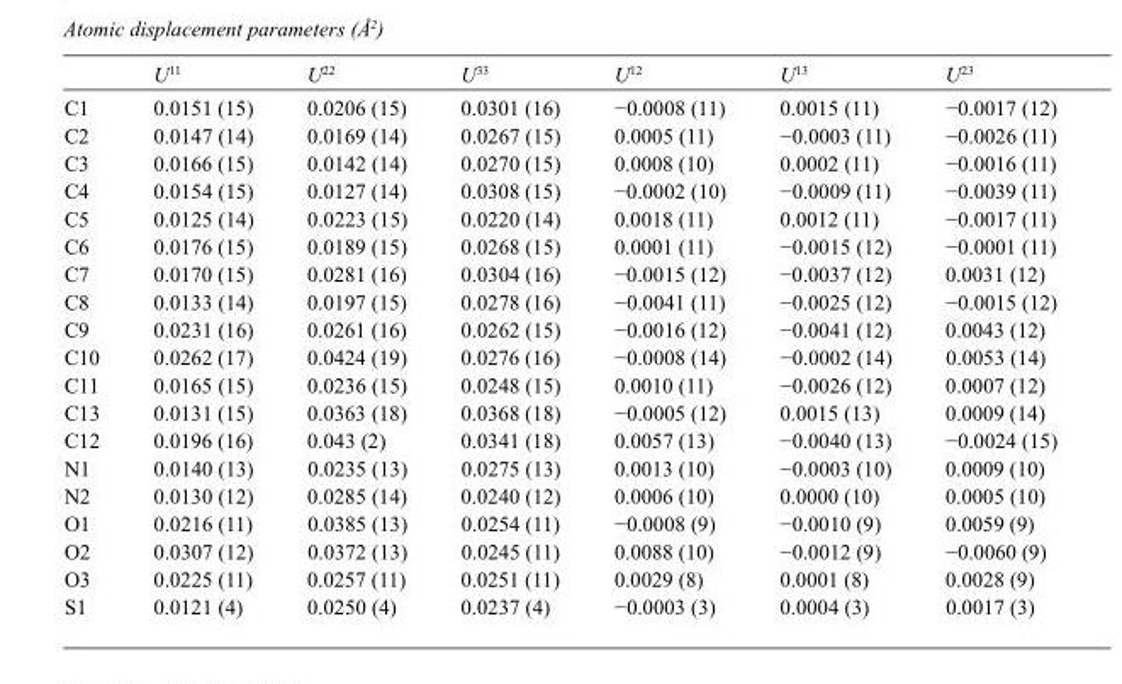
<table><thead><tr><td></td><td>U<sup>11</sup></td><td>U<sup>22</sup></td><td>U<sup>33</sup></td><td>U<sup>12</sup></td><td>U<sup>13</sup></td><td>U<sup>23</sup></td></tr></thead><tbody><tr><td>C1</td><td>0.0151 (15)</td><td>0.0206 (15)</td><td>0.0301 (16)</td><td>−0.0008 (11)</td><td>0.0015 (11)</td><td>−0.0017 (12)</td></tr><tr><td>C2</td><td>0.0147 (14)</td><td>0.0169 (14)</td><td>0.0267 (15)</td><td>0.0005 (11)</td><td>−0.0003 (11)</td><td>−0.0026 (11)</td></tr><tr><td>C3</td><td>0.0166 (15)</td><td>0.0142 (14)</td><td>0.0270 (15)</td><td>0.0008 (10)</td><td>0.0002 (11)</td><td>−0.0016 (11)</td></tr><tr><td>C4</td><td>0.0154 (15)</td><td>0.0127 (14)</td><td>0.0308 (15)</td><td>−0.0002 (10)</td><td>−0.0009 (11)</td><td>−0.0039 (11)</td></tr><tr><td>C5</td><td>0.0125 (14)</td><td>0.0223 (15)</td><td>0.0220 (14)</td><td>0.0018 (11)</td><td>0.0012 (11)</td><td>−0.0017 (11)</td></tr><tr><td>C6</td><td>0.0176 (15)</td><td>0.0189 (15)</td><td>0.0268 (15)</td><td>0.0001 (11)</td><td>−0.0015 (12)</td><td>−0.0001 (11)</td></tr><tr><td>C7</td><td>0.0170 (15)</td><td>0.0281 (16)</td><td>0.0304 (16)</td><td>−0.0015 (12)</td><td>−0.0037 (12)</td><td>0.0031 (12)</td></tr><tr><td>C8</td><td>0.0133 (14)</td><td>0.0197 (15)</td><td>0.0278 (16)</td><td>−0.0041 (11)</td><td>−0.0025 (12)</td><td>−0.0015 (12)</td></tr><tr><td>C9</td><td>0.0231 (16)</td><td>0.0261 (16)</td><td>0.0262 (15)</td><td>−0.0016 (12)</td><td>−0.0041 (12)</td><td>0.0043 (12)</td></tr><tr><td>C10</td><td>0.0262 (17)</td><td>0.0424 (19)</td><td>0.0276 (16)</td><td>−0.0008 (14)</td><td>−0.0002 (14)</td><td>0.0053 (14)</td></tr><tr><td>C11</td><td>0.0165 (15)</td><td>0.0236 (15)</td><td>0.0248 (15)</td><td>0.0010 (11)</td><td>−0.0026 (12)</td><td>0.0007 (12)</td></tr><tr><td>C13</td><td>0.0131 (15)</td><td>0.0363 (18)</td><td>0.0368 (18)</td><td>−0.0005 (12)</td><td>0.0015 (13)</td><td>0.0009 (14)</td></tr><tr><td>C12</td><td>0.0196 (16)</td><td>0.043 (2)</td><td>0.0341 (18)</td><td>0.0057 (13)</td><td>−0.0040 (13)</td><td>−0.0024 (15)</td></tr><tr><td>N1</td><td>0.0140 (13)</td><td>0.0235 (13)</td><td>0.0275 (13)</td><td>0.0013 (10)</td><td>−0.0003 (10)</td><td>0.0009 (10)</td></tr><tr><td>N2</td><td>0.0130 (12)</td><td>0.0285 (14)</td><td>0.0240 (12)</td><td>0.0006 (10)</td><td>0.0000 (10)</td><td>0.0005 (10)</td></tr><tr><td>O1</td><td>0.0216 (11)</td><td>0.0385 (13)</td><td>0.0254 (11)</td><td>−0.0008 (9)</td><td>−0.0010 (9)</td><td>0.0059 (9)</td></tr><tr><td>O2</td><td>0.0307 (12)</td><td>0.0372 (13)</td><td>0.0245 (11)</td><td>0.0088 (10)</td><td>−0.0012 (9)</td><td>−0.0060 (9)</td></tr><tr><td>O3</td><td>0.0225 (11)</td><td>0.0257 (11)</td><td>0.0251 (11)</td><td>0.0029 (8)</td><td>0.0001 (8)</td><td>0.0028 (9)</td></tr><tr><td>S1</td><td>0.0121 (4)</td><td>0.0250 (4)</td><td>0.0237 (4)</td><td>−0.0003 (3)</td><td>0.0004 (3)</td><td>0.0017 (3)</td></tr></tbody></table>